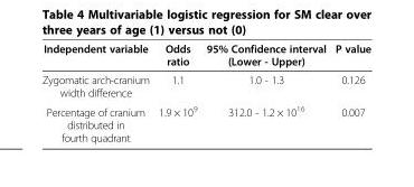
<table><thead><tr><td>Independent variable</td><td>Odds ratio</td><td>95% Confidence interval (Lower - Upper)</td><td>P value</td></tr></thead><tbody><tr><td>Zygomatic arch-cranium width difference</td><td>1.1</td><td>1.0 - 1.3</td><td>0.126</td></tr><tr><td>Percentage of cranium distributed in fourth quadrant</td><td>1.9 × 10<sup>9</sup></td><td>312.0 - 1.2 × 10<sup>16</sup></td><td>0.007</td></tr></tbody></table>